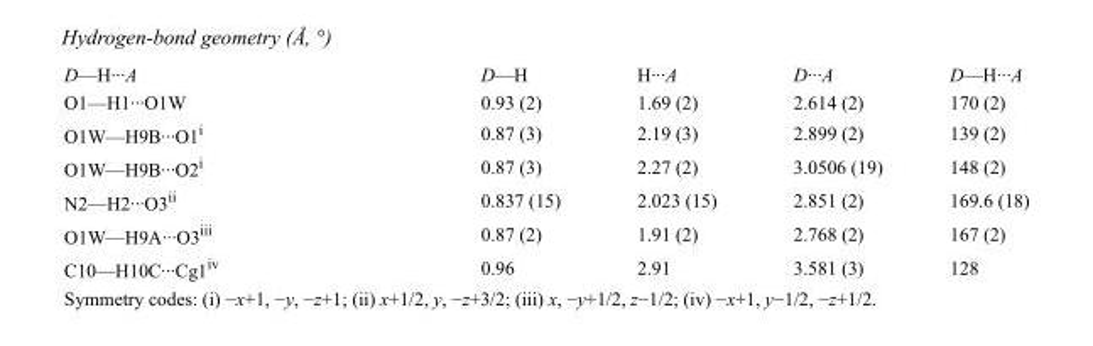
<table><tbody><tr><td>D—H···A</td><td>D—H</td><td>H···A</td><td>D···A</td><td>D—H···A</td></tr><tr><td>O1—H1···O1W</td><td>0.93 (2)</td><td>1.69 (2)</td><td>2.614 (2)</td><td>170 (2)</td></tr><tr><td>O1W—H9B···O1<sup>i</sup></td><td>0.87 (3)</td><td>2.19 (3)</td><td>2.899 (2)</td><td>139 (2)</td></tr><tr><td>O1W—H9B···O2<sup>i</sup></td><td>0.87 (3)</td><td>2.27 (2)</td><td>3.0506 (19)</td><td>148 (2)</td></tr><tr><td>N2—H2···O3<sup>ii</sup></td><td>0.837 (15)</td><td>2.023 (15)</td><td>2.851 (2)</td><td>169.6 (18)</td></tr><tr><td>O1W—H9A···O3<sup>iii</sup></td><td>0.87 (2)</td><td>1.91 (2)</td><td>2.768 (2)</td><td>167 (2)</td></tr><tr><td>C10—H10C···Cg1<sup>iv</sup></td><td>0.96</td><td>2.91</td><td>3.581 (3)</td><td>128</td></tr></tbody></table>